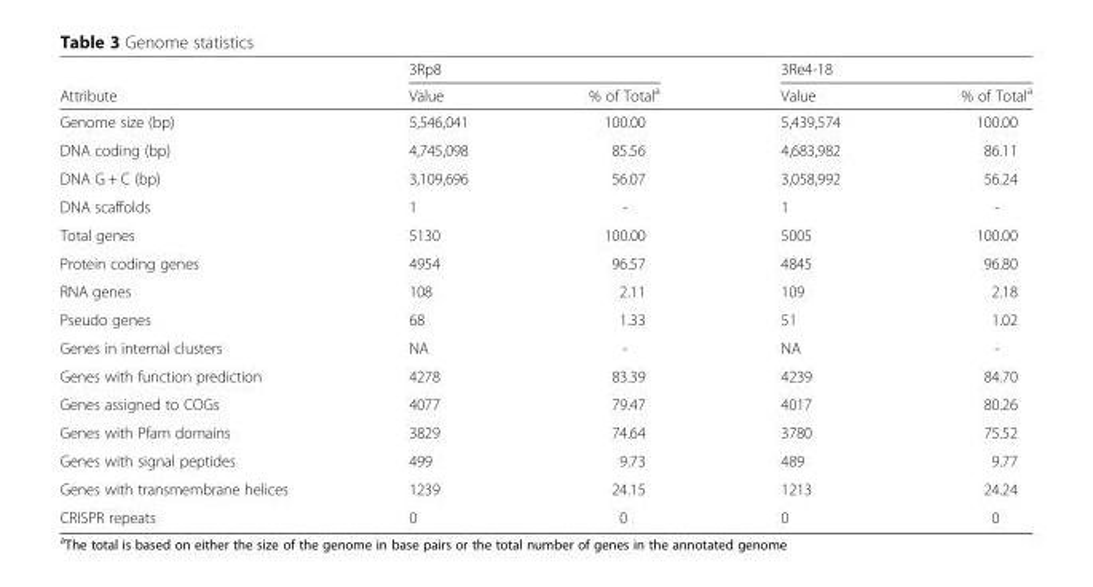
<table><thead><tr><td rowspan="2">Attribute</td><td colspan="2">3Rp8</td><td colspan="2">3Re4-18</td></tr><tr><td>Value</td><td>% of Total<sup>a</sup></td><td>Value</td><td>% of Total<sup>a</sup></td></tr></thead><tbody><tr><td>Genome size (bp)</td><td>5,546,041</td><td>100.00</td><td>5,439,574</td><td>100.00</td></tr><tr><td>DNA coding (bp)</td><td>4,745,098</td><td>85.56</td><td>4,683,982</td><td>86.11</td></tr><tr><td>DNA G + C (bp)</td><td>3,109,696</td><td>56.07</td><td>3,058,992</td><td>56.24</td></tr><tr><td>DNA scaffolds</td><td>1</td><td>-</td><td>1</td><td>-</td></tr><tr><td>Total genes</td><td>5130</td><td>100.00</td><td>5005</td><td>100.00</td></tr><tr><td>Protein coding genes</td><td>4954</td><td>96.57</td><td>4845</td><td>96.80</td></tr><tr><td>RNA genes</td><td>108</td><td>2.11</td><td>109</td><td>2.18</td></tr><tr><td>Pseudo genes</td><td>68</td><td>1.33</td><td>51</td><td>1.02</td></tr><tr><td>Genes in internal clusters</td><td>NA</td><td>-</td><td>NA</td><td>-</td></tr><tr><td>Genes with function prediction</td><td>4278</td><td>83.39</td><td>4239</td><td>84.70</td></tr><tr><td>Genes assigned to COGs</td><td>4077</td><td>79.47</td><td>4017</td><td>80.26</td></tr><tr><td>Genes with Pfam domains</td><td>3829</td><td>74.64</td><td>3780</td><td>75.52</td></tr><tr><td>Genes with signal peptides</td><td>499</td><td>9.73</td><td>489</td><td>9.77</td></tr><tr><td>Genes with transmembrane helices</td><td>1239</td><td>24.15</td><td>1213</td><td>24.24</td></tr><tr><td>CRISPR repeats</td><td>0</td><td>0</td><td>0</td><td>0</td></tr></tbody></table>